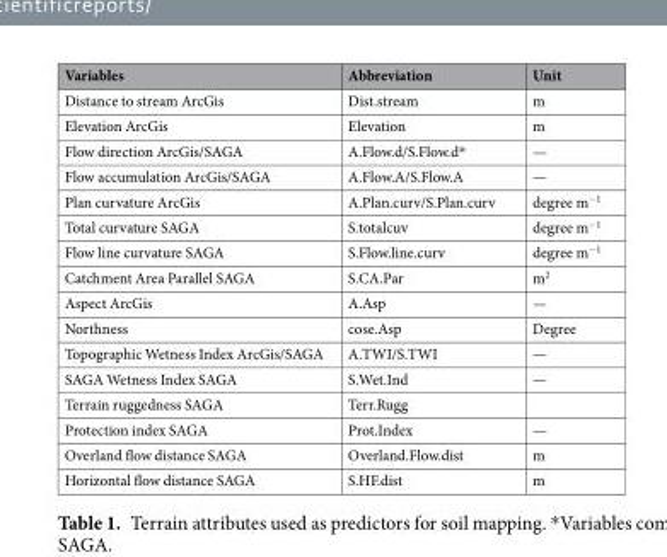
<table><thead><tr><td>Variables</td><td>Abbreviation</td><td>Unit</td></tr></thead><tbody><tr><td>Distance to stream ArcGis</td><td>Dist.stream</td><td>m</td></tr><tr><td>Elevation ArcGis</td><td>Elevation</td><td>m</td></tr><tr><td>Flow direction ArcGis/SAGA</td><td>A.Flow.d/S.Flow.d*</td><td>—</td></tr><tr><td>Flow accumulation ArcGis/SAGA</td><td>A.Flow.A/S.Flow.A</td><td>—</td></tr><tr><td>Plan curvature ArcGis</td><td>A.Plan.curv/S.Plan.curv</td><td>degree m<sup>−1</sup></td></tr><tr><td>Total curvature SAGA</td><td>S.totalcuv</td><td>degree m<sup>−1</sup></td></tr><tr><td>Flow line curvature SAGA</td><td>S.Flow.line.curv</td><td>degree m<sup>−1</sup></td></tr><tr><td>Catchment Area Parallel SAGA</td><td>S.CA.Par</td><td>m<sup>2</sup></td></tr><tr><td>Aspect ArcGis</td><td>A.Asp</td><td>—</td></tr><tr><td>Northness</td><td>cose.Asp</td><td>Degree</td></tr><tr><td>Topographic Wetness Index ArcGis/SAGA</td><td>A.TWI/S.TWI</td><td>—</td></tr><tr><td>SAGA Wetness Index SAGA</td><td>S.Wet.Ind</td><td>—</td></tr><tr><td>Terrain ruggedness SAGA</td><td>Terr.Rugg</td><td></td></tr><tr><td>Protection index SAGA</td><td>Prot.Index</td><td>—</td></tr><tr><td>Overland flow distance SAGA</td><td>Overland.Flow.dist</td><td>m</td></tr><tr><td>Horizontal flow distance SAGA</td><td>S.HF.dist</td><td>m</td></tr></tbody></table>